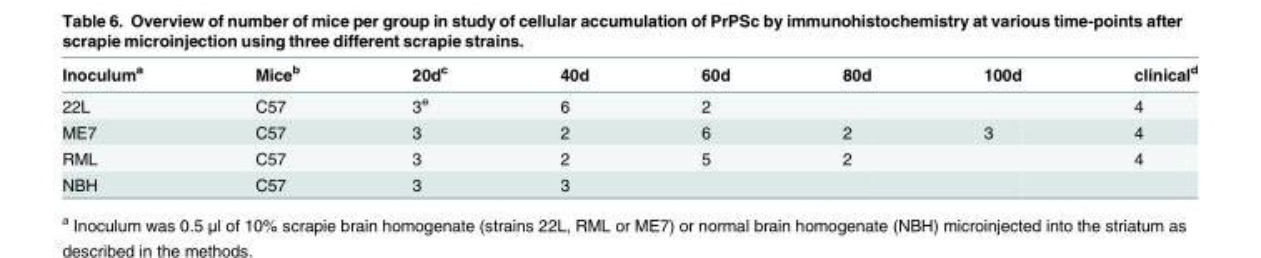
<table><thead><tr><td>Inoculum<sup>a</sup></td><td>Mice<sup>b</sup></td><td>20d<sup>c</sup></td><td>40d</td><td>60d</td><td>80d</td><td>100d</td><td>clinical<sup>d</sup></td></tr></thead><tbody><tr><td>22L</td><td>C57</td><td>3<sup>e</sup></td><td>6</td><td>2</td><td></td><td></td><td>4</td></tr><tr><td>ME7</td><td>C57</td><td>3</td><td>2</td><td>6</td><td>2</td><td>3</td><td>4</td></tr><tr><td>RML</td><td>C57</td><td>3</td><td>2</td><td>5</td><td>2</td><td></td><td>4</td></tr><tr><td>NBH</td><td>C57</td><td>3</td><td>3</td><td></td><td></td><td></td><td></td></tr></tbody></table>